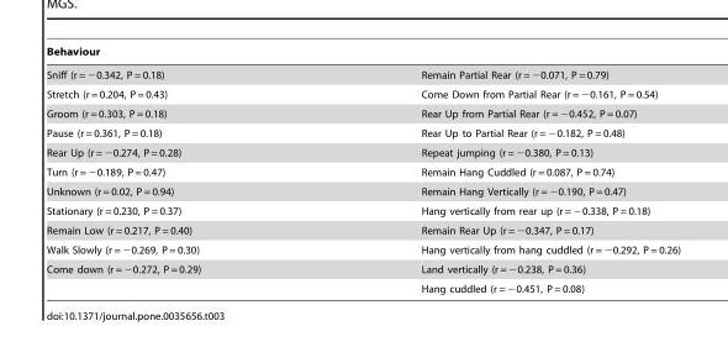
<table><thead><tr><td colspan="2">Behaviour</td></tr><tr><td>Sniff (r = −0.342, P = 0.18)</td><td>Remain Partial Rear (r = −0.071, P = 0.79)</td></tr></thead><tbody><tr><td>Stretch (r = 0.204, P = 0.43)</td><td>Come Down from Partial Rear (r = −0.161, P = 0.54)</td></tr><tr><td>Groom (r = 0.303, P = 0.18)</td><td>Rear Up from Partial Rear (r = −0.452, P = 0.07)</td></tr><tr><td>Pause (r = 0.361, P = 0.18)</td><td>Rear Up to Partial Rear (r = −0.182, P = 0.48)</td></tr><tr><td>Rear Up (r = −0.274, P = 0.28)</td><td>Repeat jumping (r = −0.380, P = 0.13)</td></tr><tr><td>Turn (r = −0.189, P = 0.47)</td><td>Remain Hang Cuddled (r = 0.087, P = 0.74)</td></tr><tr><td>Unknown (r = 0.02, P = 0.94)</td><td>Remain Hang Vertically (r = −0.190, P = 0.47)</td></tr><tr><td>Stationary (r = 0.230, P = 0.37)</td><td>Hang vertically from rear up (r = −0.338, P = 0.18)</td></tr><tr><td>Remain Low (r = 0.217, P = 0.40)</td><td>Remain Rear Up (r = −0.347, P = 0.17)</td></tr><tr><td>Walk Slowly (r = −0.269, P = 0.30)</td><td>Hang vertically from hang cuddled (r = −0.292, P = 0.26)</td></tr><tr><td rowspan="2">Come down (r = −0.272, P = 0.29)</td><td>Land vertically (r = −0.238, P = 0.36)</td></tr><tr><td>Hang cuddled (r = −0.451, P = 0.08)</td></tr></tbody></table>